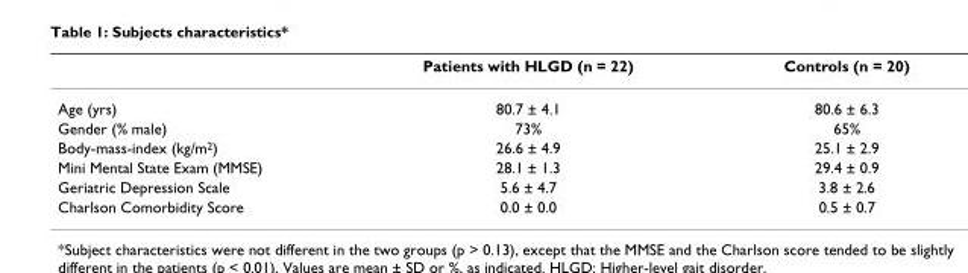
<table><thead><tr><td></td><td>Patients with HLGD (n = 22)</td><td>Controls (n = 20)</td></tr></thead><tbody><tr><td>Age (yrs)</td><td>80.7 ± 4.1</td><td>80.6 ± 6.3</td></tr><tr><td>Gender (% male)</td><td>73%</td><td>65%</td></tr><tr><td>Body-mass-index (kg/m<sup>2</sup>)</td><td>26.6 ± 4.9</td><td>25.1 ± 2.9</td></tr><tr><td>Mini Mental State Exam (MMSE)</td><td>28.1 ± 1.3</td><td>29.4 ± 0.9</td></tr><tr><td>Geriatric Depression Scale</td><td>5.6 ± 4.7</td><td>3.8 ± 2.6</td></tr><tr><td>Charlson Comorbidity Score</td><td>0.0 ± 0.0</td><td>0.5 ± 0.7</td></tr></tbody></table>